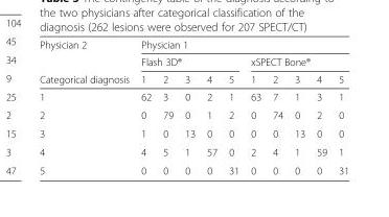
<table><thead><tr><td rowspan="3">Physician 2 Categorical diagnosis</td><td colspan="10">Physician 1</td></tr><tr><td colspan="5">Flash 3D®</td><td colspan="5">xSPECT Bone®</td></tr><tr><td>1</td><td>2</td><td>3</td><td>4</td><td>5</td><td>1</td><td>2</td><td>3</td><td>4</td><td>5</td></tr></thead><tbody><tr><td>1</td><td>62</td><td>3</td><td>0</td><td>2</td><td>1</td><td>63</td><td>7</td><td>1</td><td>3</td><td>1</td></tr><tr><td>2</td><td>0</td><td>79</td><td>0</td><td>1</td><td>2</td><td>0</td><td>74</td><td>0</td><td>2</td><td>0</td></tr><tr><td>3</td><td>1</td><td>0</td><td>13</td><td>0</td><td>0</td><td>0</td><td>0</td><td>13</td><td>0</td><td>0</td></tr><tr><td>4</td><td>4</td><td>5</td><td>1</td><td>57</td><td>0</td><td>2</td><td>4</td><td>1</td><td>59</td><td>1</td></tr><tr><td>5</td><td>0</td><td>0</td><td>0</td><td>0</td><td>31</td><td>0</td><td>0</td><td>0</td><td>0</td><td>31</td></tr></tbody></table>